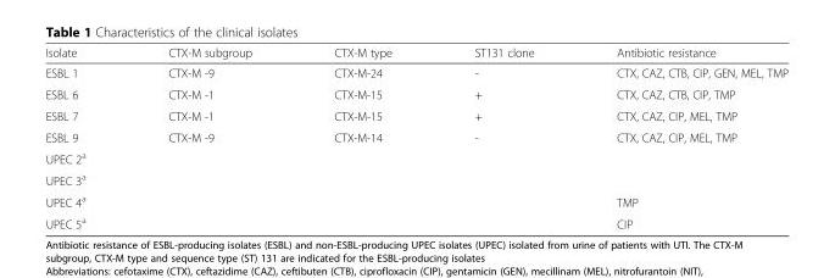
<table><thead><tr><td>Isolate</td><td>CTX-M subgroup</td><td>CTX-M type</td><td>ST131 clone</td><td>Antibiotic resistance</td></tr></thead><tbody><tr><td>ESBL 1</td><td>CTX-M -9</td><td>CTX-M-24</td><td>-</td><td>CTX, CAZ, CTB, CIP, GEN, MEL, TMP</td></tr><tr><td>ESBL 6</td><td>CTX-M -1</td><td>CTX-M-15</td><td>+</td><td>CTX, CAZ, CTB, CIP, TMP</td></tr><tr><td>ESBL 7</td><td>CTX-M -1</td><td>CTX-M-15</td><td>+</td><td>CTX, CAZ, CIP, MEL, TMP</td></tr><tr><td>ESBL 9</td><td>CTX-M -9</td><td>CTX-M-14</td><td>-</td><td>CTX, CAZ, CIP, MEL, TMP</td></tr><tr><td colspan="5">UPEC 2<sup>a</sup></td></tr><tr><td colspan="5">UPEC 3<sup>a</sup></td></tr><tr><td>UPEC 4<sup>a</sup></td><td></td><td></td><td></td><td>TMP</td></tr><tr><td>UPEC 5<sup>a</sup></td><td></td><td></td><td></td><td>CIP</td></tr></tbody></table>